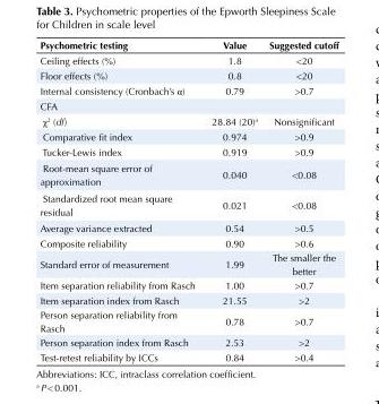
<table><tbody><tr><td>Psychometric testing</td><td>Value</td><td>Suggested cutoff</td></tr><tr><td>Ceiling effects (%)</td><td>1.8</td><td>&lt;20</td></tr><tr><td>Floor effects (%)</td><td>0.8</td><td>&lt;20</td></tr><tr><td>Internal consistency (Cronbach’s α)</td><td>0.79</td><td>&gt;0.7</td></tr><tr><td colspan="3">CFA</td></tr><tr><td>χ<sup>2</sup> (df)</td><td>28.84 (20)<sup>a</sup></td><td>Nonsignificant</td></tr><tr><td>Comparative fit index</td><td>0.974</td><td>&gt;0.9</td></tr><tr><td>Tucker-Lewis index</td><td>0.919</td><td>&gt;0.9</td></tr><tr><td>Root-mean square error of approximation</td><td>0.040</td><td>&lt;0.08</td></tr><tr><td>Standardized root mean square residual</td><td>0.021</td><td>&lt;0.08</td></tr><tr><td>Average variance extracted</td><td>0.54</td><td>&gt;0.5</td></tr><tr><td>Composite reliability</td><td>0.90</td><td>&gt;0.6</td></tr><tr><td>Standard error of measurement</td><td>1.99</td><td>The smaller the better</td></tr><tr><td>Item separation reliability from Rasch</td><td>1.00</td><td>&gt;0.7</td></tr><tr><td>Item separation index from Rasch</td><td>21.55</td><td>&gt;2</td></tr><tr><td>Person separation reliability from Rasch</td><td>0.78</td><td>&gt;0.7</td></tr><tr><td>Person separation index from Rasch</td><td>2.53</td><td>&gt;2</td></tr><tr><td>Test-retest reliability by ICCs</td><td>0.84</td><td>&gt;0.4</td></tr></tbody></table>